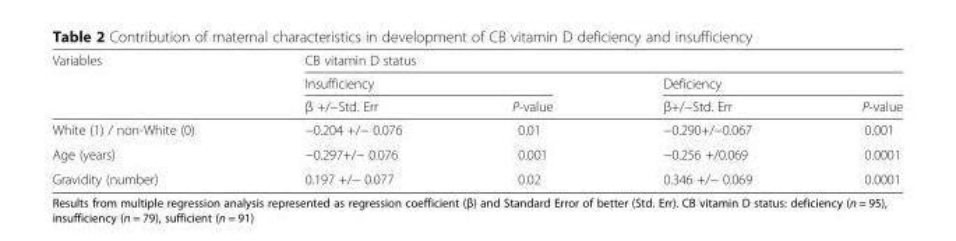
<table><thead><tr><td rowspan="3">Variables</td><td colspan="4">CB vitamin D status</td></tr><tr><td colspan="2">Insufficiency</td><td colspan="2">Deficiency</td></tr><tr><td>β +/−Std. Err</td><td>P-value</td><td>β+/−Std. Err</td><td>P-value</td></tr></thead><tbody><tr><td>White (1) / non-White (0)</td><td>−0.204 +/− 0.076</td><td>0.01</td><td>−0.290+/−0.067</td><td>0.001</td></tr><tr><td>Age (years)</td><td>−0.297+/− 0.076</td><td>0.001</td><td>−0.256 +/0.069</td><td>0.0001</td></tr><tr><td>Gravidity (number)</td><td>0.197 +/− 0.077</td><td>0.02</td><td>0.346 +/− 0.069</td><td>0.0001</td></tr></tbody></table>